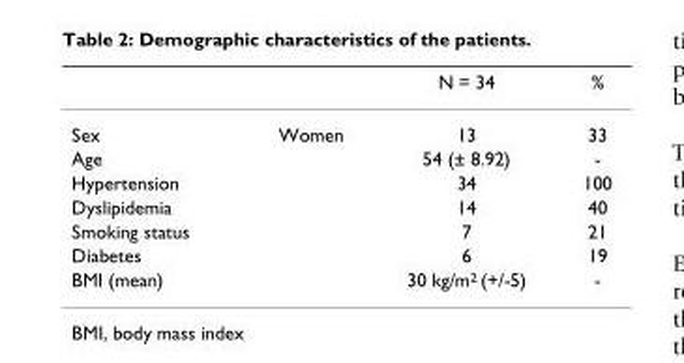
<table><thead><tr><td></td><td></td><td>N = 34</td><td>%</td></tr></thead><tbody><tr><td>Sex</td><td>Women</td><td>13</td><td>33</td></tr><tr><td>Age</td><td></td><td>54 (± 8.92)</td><td>-</td></tr><tr><td>Hypertension</td><td></td><td>34</td><td>100</td></tr><tr><td>Dyslipidemia</td><td></td><td>14</td><td>40</td></tr><tr><td>Smoking status</td><td></td><td>7</td><td>21</td></tr><tr><td>Diabetes</td><td></td><td>6</td><td>19</td></tr><tr><td>BMI (mean)</td><td></td><td>30 kg/m<sup>2</sup> (+/-5)</td><td>-</td></tr></tbody></table>